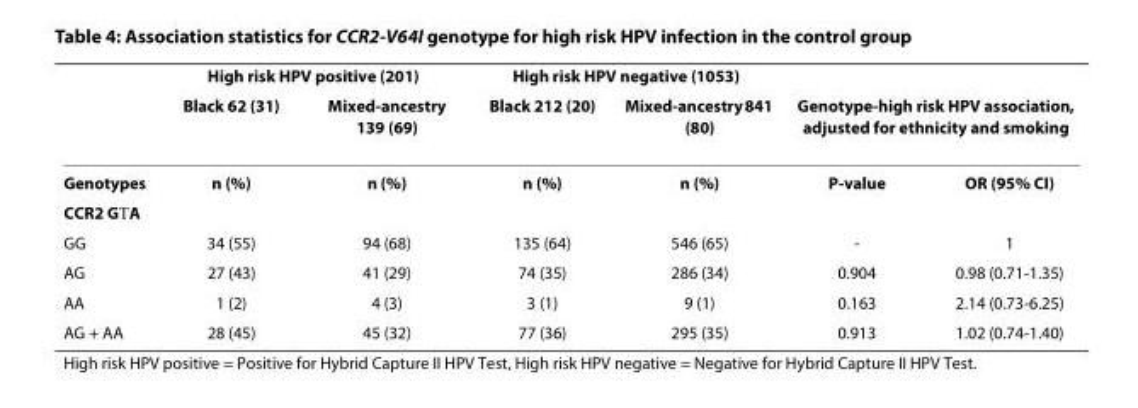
<table><thead><tr><td rowspan="2"></td><td colspan="2">High risk HPV positive (201)</td><td colspan="2">High risk HPV negative (1053)</td><td></td><td></td></tr><tr><td>Black 62 (31)</td><td>Mixed-ancestry 139 (69)</td><td>Black 212 (20)</td><td>Mixed-ancestry 841 (80)</td><td colspan="2">Genotype-high risk HPV association, adjusted for ethnicity and smoking</td></tr></thead><tbody><tr><td>Genotypes</td><td>n (%)</td><td>n (%)</td><td>n (%)</td><td>n (%)</td><td>P-value</td><td>OR (95% CI)</td></tr><tr><td colspan="7">CCR2 G→A</td></tr><tr><td>GG</td><td>34 (55)</td><td>94 (68)</td><td>135 (64)</td><td>546 (65)</td><td>-</td><td>1</td></tr><tr><td>AG</td><td>27 (43)</td><td>41 (29)</td><td>74 (35)</td><td>286 (34)</td><td>0.904</td><td>0.98 (0.71-1.35)</td></tr><tr><td>AA</td><td>1 (2)</td><td>4 (3)</td><td>3 (1)</td><td>9 (1)</td><td>0.163</td><td>2.14 (0.73-6.25)</td></tr><tr><td>AG + AA</td><td>28 (45)</td><td>45 (32)</td><td>77 (36)</td><td>295 (35)</td><td>0.913</td><td>1.02 (0.74-1.40)</td></tr></tbody></table>